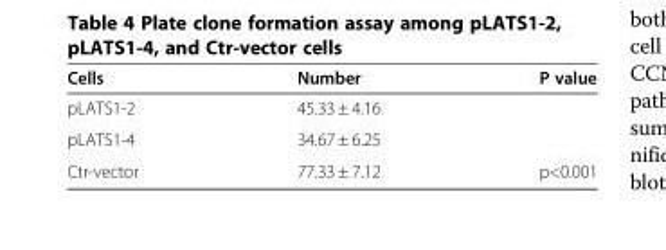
<table><thead><tr><td>Cells</td><td>Number</td><td>P value</td></tr></thead><tbody><tr><td>pLATS1-2</td><td>45.33 ± 4.16</td><td></td></tr><tr><td>pLATS1-4</td><td>34.67 ± 6.25</td><td></td></tr><tr><td>Ctr-vector</td><td>77.33 ± 7.12</td><td>p&lt;0.001</td></tr></tbody></table>